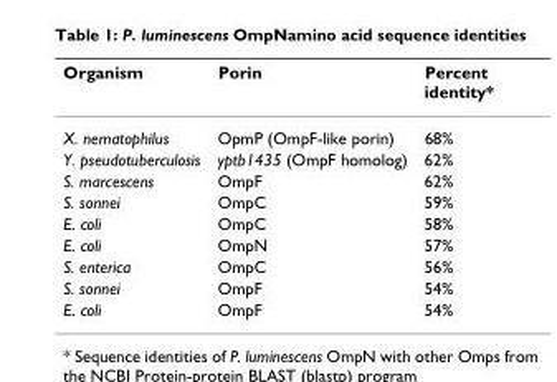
<table><thead><tr><td>Organism</td><td>Porin</td><td>Percent identity*</td></tr></thead><tbody><tr><td>X. nematophilus</td><td>OpmP (OmpF-like porin)</td><td>68%</td></tr><tr><td>Y. pseudotuberculosis</td><td>yptb1435 (OmpF homolog)</td><td>62%</td></tr><tr><td>S. marcescens</td><td>OmpF</td><td>62%</td></tr><tr><td>S. sonnei</td><td>OmpC</td><td>59%</td></tr><tr><td>E. coli</td><td>OmpC</td><td>58%</td></tr><tr><td>E. coli</td><td>OmpN</td><td>57%</td></tr><tr><td>S. enterica</td><td>OmpC</td><td>56%</td></tr><tr><td>S. sonnei</td><td>OmpF</td><td>54%</td></tr><tr><td>E. coli</td><td>OmpF</td><td>54%</td></tr></tbody></table>